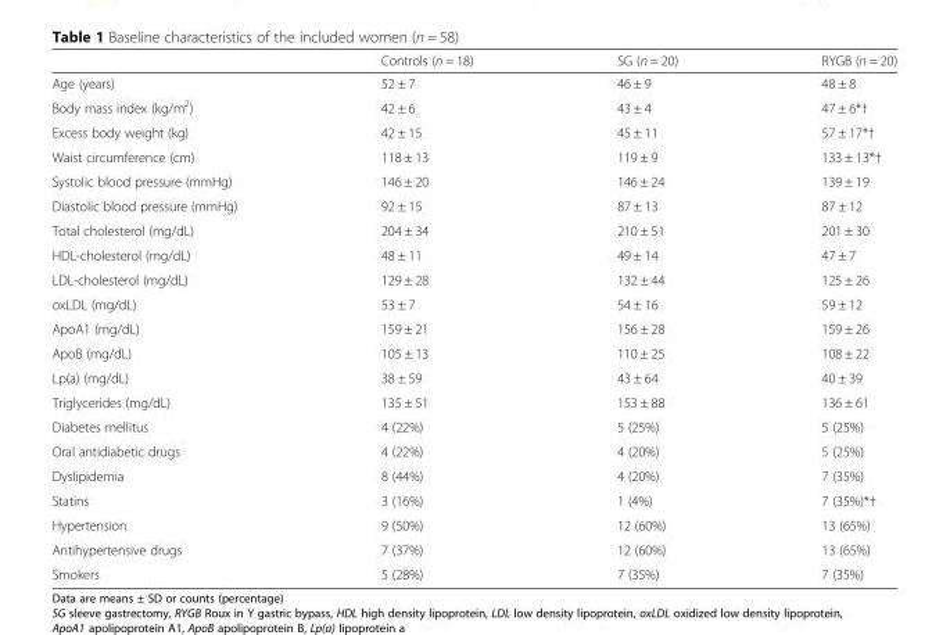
<table><thead><tr><td></td><td>Controls (n = 18)</td><td>SG (n = 20)</td><td>RYGB (n = 20)</td></tr></thead><tbody><tr><td>Age (years)</td><td>52 ± 7</td><td>46 ± 9</td><td>48 ± 8</td></tr><tr><td>Body mass index (kg/m<sup>2</sup>)</td><td>42 ± 6</td><td>43 ± 4</td><td>47 ± 6*†</td></tr><tr><td>Excess body weight (kg)</td><td>42 ± 15</td><td>45 ± 11</td><td>57 ± 17*†</td></tr><tr><td>Waist circumference (cm)</td><td>118 ± 13</td><td>119 ± 9</td><td>133 ± 13*†</td></tr><tr><td>Systolic blood pressure (mmHg)</td><td>146 ± 20</td><td>146 ± 24</td><td>139 ± 19</td></tr><tr><td>Diastolic blood pressure (mmHg)</td><td>92 ± 15</td><td>87 ± 13</td><td>87 ± 12</td></tr><tr><td>Total cholesterol (mg/dL)</td><td>204 ± 34</td><td>210 ± 51</td><td>201 ± 30</td></tr><tr><td>HDL-cholesterol (mg/dL)</td><td>48 ± 11</td><td>49 ± 14</td><td>47 ± 7</td></tr><tr><td>LDL-cholesterol (mg/dL)</td><td>129 ± 28</td><td>132 ± 44</td><td>125 ± 26</td></tr><tr><td>oxLDL (mg/dL)</td><td>53 ± 7</td><td>54 ± 16</td><td>59 ± 12</td></tr><tr><td>ApoA1 (mg/dL)</td><td>159 ± 21</td><td>156 ± 28</td><td>159 ± 26</td></tr><tr><td>ApoB (mg/dL)</td><td>105 ± 13</td><td>110 ± 25</td><td>108 ± 22</td></tr><tr><td>Lp(a) (mg/dL)</td><td>38 ± 59</td><td>43 ± 64</td><td>40 ± 39</td></tr><tr><td>Triglycerides (mg/dL)</td><td>135 ± 51</td><td>153 ± 88</td><td>136 ± 61</td></tr><tr><td>Diabetes mellitus</td><td>4 (22%)</td><td>5 (25%)</td><td>5 (25%)</td></tr><tr><td>Oral antidiabetic drugs</td><td>4 (22%)</td><td>4 (20%)</td><td>5 (25%)</td></tr><tr><td>Dyslipidemia</td><td>8 (44%)</td><td>4 (20%)</td><td>7 (35%)</td></tr><tr><td>Statins</td><td>3 (16%)</td><td>1 (4%)</td><td>7 (35%)*†</td></tr><tr><td>Hypertension</td><td>9 (50%)</td><td>12 (60%)</td><td>13 (65%)</td></tr><tr><td>Antihypertensive drugs</td><td>7 (37%)</td><td>12 (60%)</td><td>13 (65%)</td></tr><tr><td>Smokers</td><td>5 (28%)</td><td>7 (35%)</td><td>7 (35%)</td></tr></tbody></table>